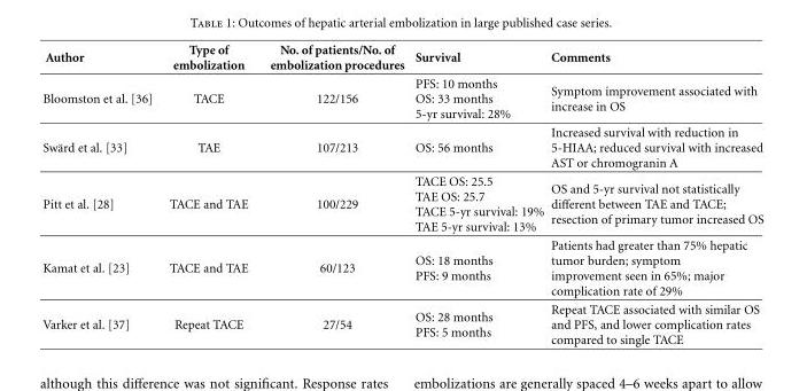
<table><thead><tr><td>Author</td><td>Type of embolization</td><td>No. of patients/No. of embolization procedures</td><td>Survival</td><td>Comments</td></tr></thead><tbody><tr><td>Bloomston et al. [36]</td><td>TACE</td><td>122/156</td><td>PFS: 10 months OS: 33 months 5-yr survival: 28%</td><td>Symptom improvement associated with increase in OS</td></tr><tr><td>Sw¨ard et al. [33]</td><td>TAE</td><td>107/213</td><td>OS: 56 months</td><td>Increased survival with reduction in 5-HIAA; reduced survival with increased AST or chromogranin A</td></tr><tr><td>Pitt et al. [28]</td><td>TACE and TAE</td><td>100/229</td><td>TACE OS: 25.5 TAE OS: 25.7 TACE 5-yr survival: 19% TAE 5-yr survival: 13%</td><td>OS and 5-yr survival not statistically different between TAE and TACE; resection of primary tumor increased OS</td></tr><tr><td>Kamat et al. [23]</td><td>TACE and TAE</td><td>60/123</td><td>OS: 18 months PFS: 9 months</td><td>Patients had greater than 75% hepatic tumor burden; symptom improvement seen in 65%; major complication rate of 29%</td></tr><tr><td>Varker et al. [37]</td><td>Repeat TACE</td><td>27/54</td><td>OS: 28 months PFS: 5 months</td><td>Repeat TACE associated with similar OS and PFS, and lower complication rates compared to single TACE</td></tr></tbody></table>